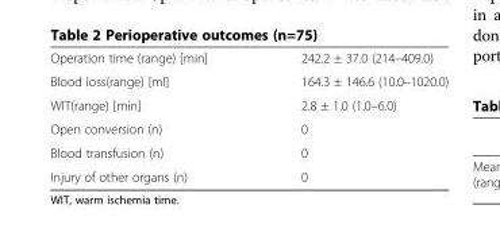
<table><tbody><tr><td>Operation time (range) [min]</td><td>242.2 ± 37.0 (214–409.0)</td></tr><tr><td>Blood loss(range) [ml]</td><td>164.3 ± 146.6 (10.0–1020.0)</td></tr><tr><td>WIT(range) [min]</td><td>2.8 ± 1.0 (1.0–6.0)</td></tr><tr><td>Open conversion (n)</td><td>0</td></tr><tr><td>Blood transfusion (n)</td><td>0</td></tr><tr><td>Injury of other organs (n)</td><td>0</td></tr></tbody></table>